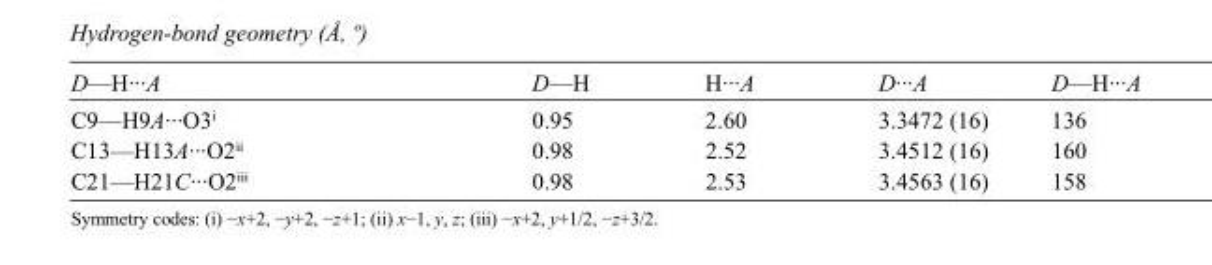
<table><tbody><tr><td>D—H···A</td><td>D—H</td><td>H···A</td><td>D···A</td><td>D—H···A</td></tr><tr><td>C9—H9A···O3<sup>i</sup></td><td>0.95</td><td>2.60</td><td>3.3472 (16)</td><td>136</td></tr><tr><td>C13—H13A···O2<sup>ii</sup></td><td>0.98</td><td>2.52</td><td>3.4512 (16)</td><td>160</td></tr><tr><td>C21—H21C···O2<sup>iii</sup></td><td>0.98</td><td>2.53</td><td>3.4563 (16)</td><td>158</td></tr></tbody></table>